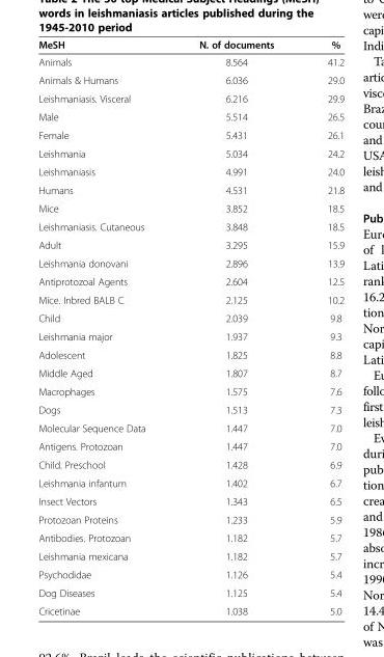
<table><thead><tr><td>MeSH</td><td>N. of documents</td><td>%</td></tr></thead><tbody><tr><td>Animals</td><td>8.564</td><td>41.2</td></tr><tr><td>Animals &amp; Humans</td><td>6.036</td><td>29.0</td></tr><tr><td>Leishmaniasis. Visceral</td><td>6.216</td><td>29.9</td></tr><tr><td>Male</td><td>5.514</td><td>26.5</td></tr><tr><td>Female</td><td>5.431</td><td>26.1</td></tr><tr><td>Leishmania</td><td>5.034</td><td>24.2</td></tr><tr><td>Leishmaniasis</td><td>4.991</td><td>24.0</td></tr><tr><td>Humans</td><td>4.531</td><td>21.8</td></tr><tr><td>Mice</td><td>3.852</td><td>18.5</td></tr><tr><td>Leishmaniasis. Cutaneous</td><td>3.848</td><td>18.5</td></tr><tr><td>Adult</td><td>3.295</td><td>15.9</td></tr><tr><td>Leishmania donovani</td><td>2.896</td><td>13.9</td></tr><tr><td>Antiprotozoal Agents</td><td>2.604</td><td>12.5</td></tr><tr><td>Mice. Inbred BALB C</td><td>2.125</td><td>10.2</td></tr><tr><td>Child</td><td>2.039</td><td>9.8</td></tr><tr><td>Leishmania major</td><td>1.937</td><td>9.3</td></tr><tr><td>Adolescent</td><td>1.825</td><td>8.8</td></tr><tr><td>Middle Aged</td><td>1.807</td><td>8.7</td></tr><tr><td>Macrophages</td><td>1.575</td><td>7.6</td></tr><tr><td>Dogs</td><td>1.513</td><td>7.3</td></tr><tr><td>Molecular Sequence Data</td><td>1.447</td><td>7.0</td></tr><tr><td>Antigens. Protozoan</td><td>1.447</td><td>7.0</td></tr><tr><td>Child. Preschool</td><td>1.428</td><td>6.9</td></tr><tr><td>Leishmania infantum</td><td>1.402</td><td>6.7</td></tr><tr><td>Insect Vectors</td><td>1.343</td><td>6.5</td></tr><tr><td>Protozoan Proteins</td><td>1.233</td><td>5.9</td></tr><tr><td>Antibodies. Protozoan</td><td>1.182</td><td>5.7</td></tr><tr><td>Leishmania mexicana</td><td>1.182</td><td>5.7</td></tr><tr><td>Psychodidae</td><td>1.126</td><td>5.4</td></tr><tr><td>Dog Diseases</td><td>1.125</td><td>5.4</td></tr><tr><td>Cricetinae</td><td>1.038</td><td>5.0</td></tr></tbody></table>